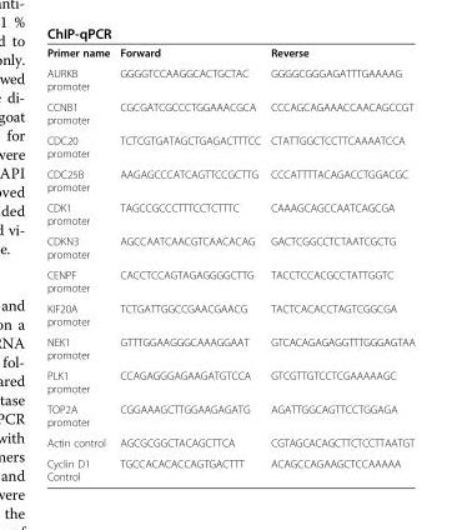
<table><tbody><tr><td>Primer name</td><td>Forward</td><td>Reverse</td></tr><tr><td>AURKB promoter</td><td>GGGGTCCAAGGCACTGCTAC</td><td>GGGGCGGGAGATTTGAAAAG</td></tr><tr><td>CCNB1 promoter</td><td>CGCGATCGCCCTGGAAACGCA</td><td>CCCAGCAGAAACCAACAGCCGT</td></tr><tr><td>CDC20 promoter</td><td>TCTCGTGATAGCTGAGACTTTCC</td><td>CTATTGGCTCCTTCAAAATCCA</td></tr><tr><td>CDC25B promoter</td><td>AAGAGCCCATCAGTTCCGCTTG</td><td>CCCATTTTACAGACCTGGACGC</td></tr><tr><td>CDK1 promoter</td><td>TAGCCGCCCTTTCCTCTTTC</td><td>CAAAGCAGCCAATCAGCGA</td></tr><tr><td>CDKN3 promoter</td><td>AGCCAATCAACGTCAACACAG</td><td>GACTCGGCCTCTAATCGCTG</td></tr><tr><td>CENPF promoter</td><td>CACCTCCAGTAGAGGGGCTTG</td><td>TACCTCCACGCCTATTGGTC</td></tr><tr><td>KIF20A promoter</td><td>TCTGATTGGCCGAACGAACG</td><td>TACTCACACCTAGTCGGCGA</td></tr><tr><td>NEK1 promoter</td><td>GTTTGGAAGGGCAAAGGAAT</td><td>GTCACAGAGAGGTTTGGGAGTAA</td></tr><tr><td>PLK1 promoter</td><td>CCAGAGGGAGAAGATGTCCA</td><td>GTCGTTGTCCTCGAAAAAGC</td></tr><tr><td>TOP2A promoter</td><td>CGGAAAGCTTGGAAGAGATG</td><td>AGATTGGCAGTTCCTGGAGA</td></tr><tr><td>Actin control</td><td>AGCGCGGCTACAGCTTCA</td><td>CGTAGCACAGCTTCTCCTTAATGT</td></tr><tr><td>Cyclin D1 Control</td><td>TGCCACACACCAGTGACTTT</td><td>ACAGCCAGAAGCTCCAAAAA</td></tr></tbody></table>